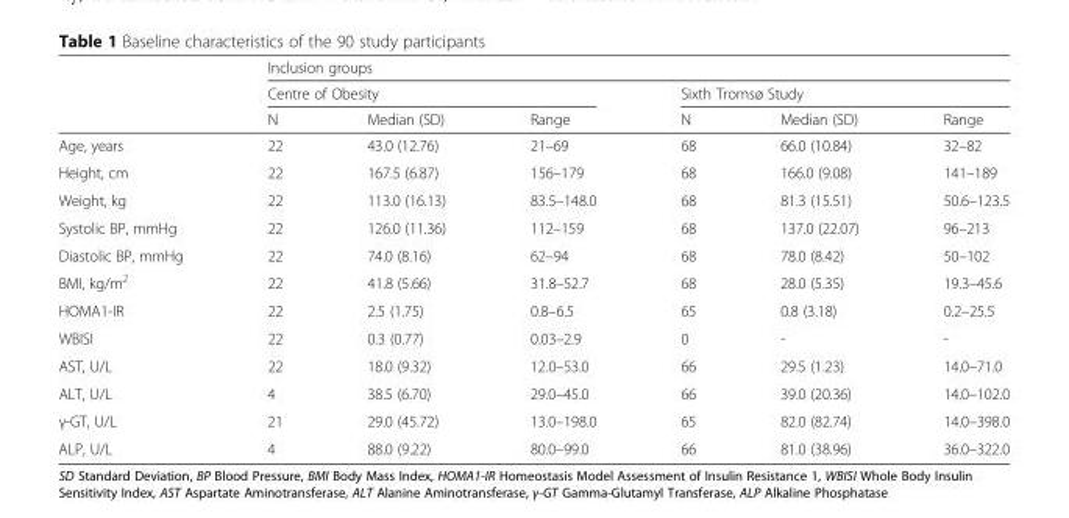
<table><thead><tr><td rowspan="3"></td><td colspan="6">Inclusion groups</td></tr><tr><td colspan="3">Centre of Obesity</td><td colspan="3">Sixth Tromsø Study</td></tr><tr><td>N</td><td>Median (SD)</td><td>Range</td><td>N</td><td>Median (SD)</td><td>Range</td></tr></thead><tbody><tr><td>Age, years</td><td>22</td><td>43.0 (12.76)</td><td>21–69</td><td>68</td><td>66.0 (10.84)</td><td>32–82</td></tr><tr><td>Height, cm</td><td>22</td><td>167.5 (6.87)</td><td>156–179</td><td>68</td><td>166.0 (9.08)</td><td>141–189</td></tr><tr><td>Weight, kg</td><td>22</td><td>113.0 (16.13)</td><td>83.5–148.0</td><td>68</td><td>81.3 (15.51)</td><td>50.6–123.5</td></tr><tr><td>Systolic BP, mmHg</td><td>22</td><td>126.0 (11.36)</td><td>112–159</td><td>68</td><td>137.0 (22.07)</td><td>96–213</td></tr><tr><td>Diastolic BP, mmHg</td><td>22</td><td>74.0 (8.16)</td><td>62–94</td><td>68</td><td>78.0 (8.42)</td><td>50–102</td></tr><tr><td>BMI, kg/m<sup>2</sup></td><td>22</td><td>41.8 (5.66)</td><td>31.8–52.7</td><td>68</td><td>28.0 (5.35)</td><td>19.3–45.6</td></tr><tr><td>HOMA1-IR</td><td>22</td><td>2.5 (1.75)</td><td>0.8–6.5</td><td>65</td><td>0.8 (3.18)</td><td>0.2–25.5</td></tr><tr><td>WBISI</td><td>22</td><td>0.3 (0.77)</td><td>0.03–2.9</td><td>0</td><td>-</td><td>-</td></tr><tr><td>AST, U/L</td><td>22</td><td>18.0 (9.32)</td><td>12.0–53.0</td><td>66</td><td>29.5 (1.23)</td><td>14.0–71.0</td></tr><tr><td>ALT, U/L</td><td>4</td><td>38.5 (6.70)</td><td>29.0–45.0</td><td>66</td><td>39.0 (20.36)</td><td>14.0–102.0</td></tr><tr><td>γ-GT, U/L</td><td>21</td><td>29.0 (45.72)</td><td>13.0–198.0</td><td>65</td><td>82.0 (82.74)</td><td>14.0–398.0</td></tr><tr><td>ALP, U/L</td><td>4</td><td>88.0 (9.22)</td><td>80.0–99.0</td><td>66</td><td>81.0 (38.96)</td><td>36.0–322.0</td></tr></tbody></table>